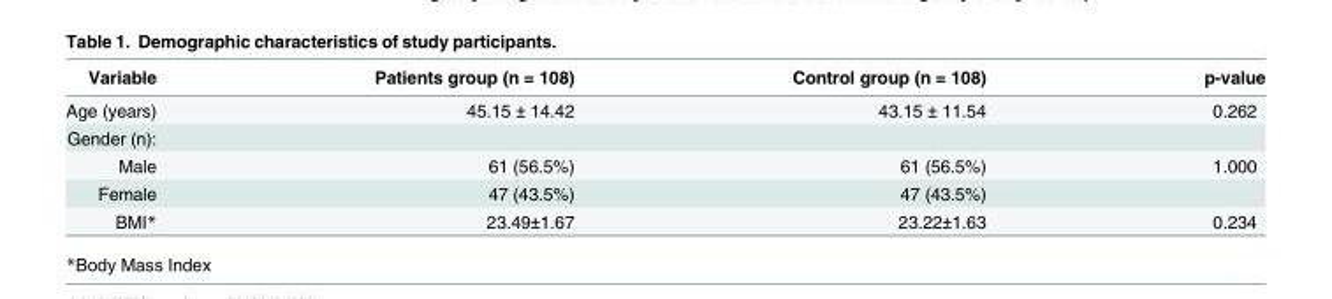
<table><thead><tr><td>Variable</td><td>Patients group (n = 108)</td><td>Control group (n = 108)</td><td>p-value</td></tr></thead><tbody><tr><td>Age (years)</td><td>45.15 ± 14.42</td><td>43.15 ± 11.54</td><td>0.262</td></tr><tr><td colspan="4">Gender (n):</td></tr><tr><td>Male</td><td>61 (56.5%)</td><td>61 (56.5%)</td><td>1.000</td></tr><tr><td>Female</td><td>47 (43.5%)</td><td>47 (43.5%)</td><td></td></tr><tr><td>BMI*</td><td>23.49±1.67</td><td>23.22±1.63</td><td>0.234</td></tr></tbody></table>